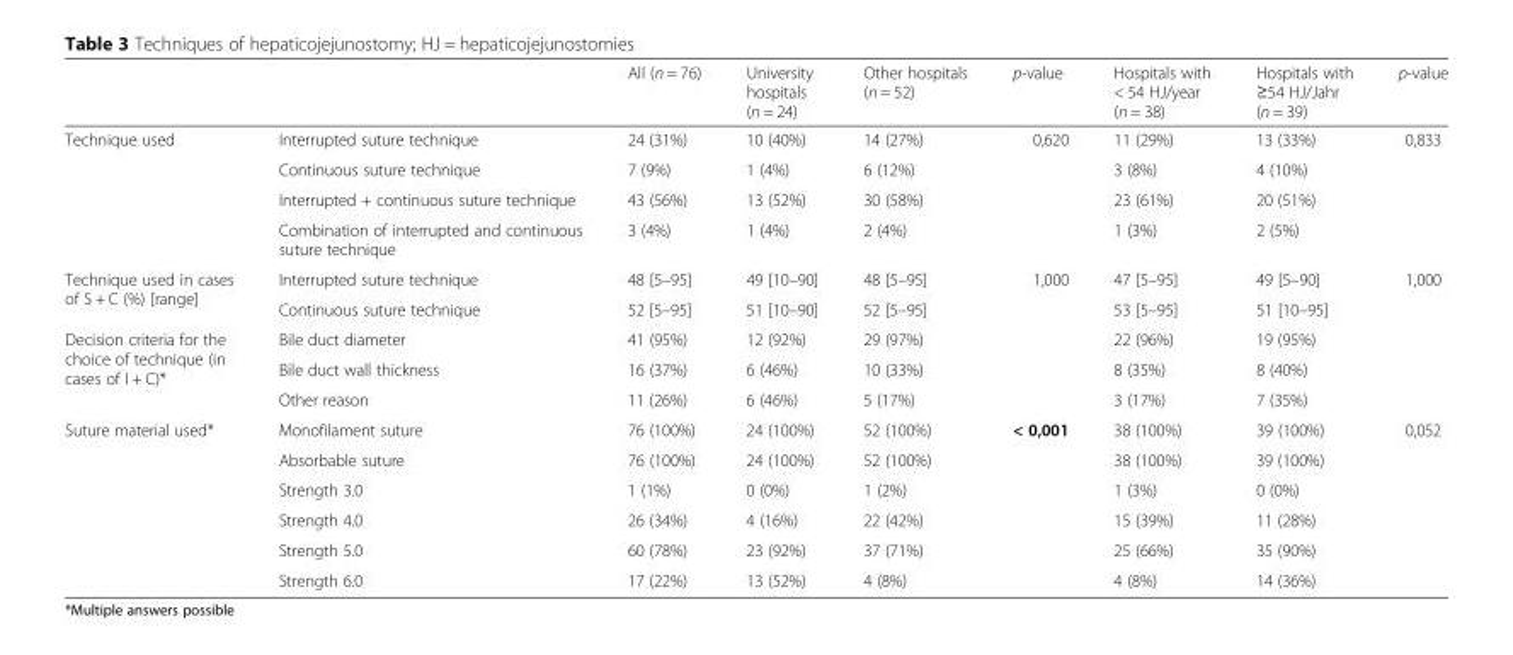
<table><thead><tr><td></td><td></td><td>All (n = 76)</td><td>University hospitals (n = 24)</td><td>Other hospitals (n = 52)</td><td>p-value</td><td>Hospitals with &lt; 54 HJ/year (n = 38)</td><td>Hospitals with ≥54 HJ/Jahr (n = 39)</td><td>p-value</td></tr></thead><tbody><tr><td rowspan="4">Technique used</td><td>Interrupted suture technique</td><td>24 (31%)</td><td>10 (40%)</td><td>14 (27%)</td><td rowspan="4">0,620</td><td>11 (29%)</td><td>13 (33%)</td><td rowspan="4">0,833</td></tr><tr><td>Continuous suture technique</td><td>7 (9%)</td><td>1 (4%)</td><td>6 (12%)</td><td>3 (8%)</td><td>4 (10%)</td></tr><tr><td>Interrupted + continuous suture technique</td><td>43 (56%)</td><td>13 (52%)</td><td>30 (58%)</td><td>23 (61%)</td><td>20 (51%)</td></tr><tr><td>Combination of interrupted and continuous suture technique</td><td>3 (4%)</td><td>1 (4%)</td><td>2 (4%)</td><td>1 (3%)</td><td>2 (5%)</td></tr><tr><td rowspan="2">Technique used in cases of S + C (%) [range]</td><td>Interrupted suture technique</td><td>48 [5–95]</td><td>49 [10–90]</td><td>48 [5–95]</td><td rowspan="2">1,000</td><td>47 [5–95]</td><td>49 [5–90]</td><td rowspan="2">1,000</td></tr><tr><td>Continuous suture technique</td><td>52 [5–95]</td><td>51 [10–90]</td><td>52 [5–95]</td><td>53 [5–95]</td><td>51 [10–95]</td></tr><tr><td rowspan="3">Decision criteria for the choice of technique (in cases of I + C)*</td><td>Bile duct diameter</td><td>41 (95%)</td><td>12 (92%)</td><td>29 (97%)</td><td rowspan="3"></td><td>22 (96%)</td><td>19 (95%)</td><td rowspan="3"></td></tr><tr><td>Bile duct wall thickness</td><td>16 (37%)</td><td>6 (46%)</td><td>10 (33%)</td><td>8 (35%)</td><td>8 (40%)</td></tr><tr><td>Other reason</td><td>11 (26%)</td><td>6 (46%)</td><td>5 (17%)</td><td>3 (17%)</td><td>7 (35%)</td></tr><tr><td rowspan="6">Suture material used*</td><td>Monofilament suture</td><td>76 (100%)</td><td>24 (100%)</td><td>52 (100%)</td><td rowspan="6">&lt; 0,001</td><td>38 (100%)</td><td>39 (100%)</td><td rowspan="6">0,052</td></tr><tr><td>Absorbable suture</td><td>76 (100%)</td><td>24 (100%)</td><td>52 (100%)</td><td>38 (100%)</td><td>39 (100%)</td></tr><tr><td>Strength 3.0</td><td>1 (1%)</td><td>0 (0%)</td><td>1 (2%)</td><td>1 (3%)</td><td>0 (0%)</td></tr><tr><td>Strength 4.0</td><td>26 (34%)</td><td>4 (16%)</td><td>22 (42%)</td><td>15 (39%)</td><td>11 (28%)</td></tr><tr><td>Strength 5.0</td><td>60 (78%)</td><td>23 (92%)</td><td>37 (71%)</td><td>25 (66%)</td><td>35 (90%)</td></tr><tr><td>Strength 6.0</td><td>17 (22%)</td><td>13 (52%)</td><td>4 (8%)</td><td>4 (8%)</td><td>14 (36%)</td></tr></tbody></table>